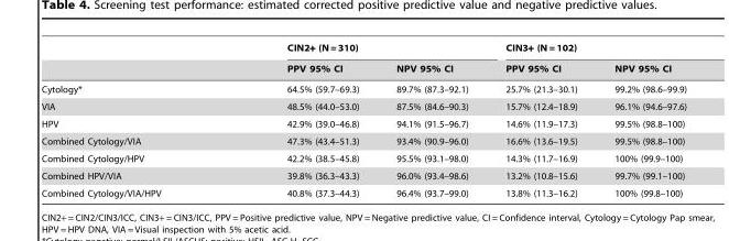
<table><thead><tr><td rowspan="2"></td><td colspan="2">CIN2+ (N = 310)</td><td colspan="2">CIN3+ (N = 102)</td></tr><tr><td>PPV 95% CI</td><td>NPV 95% CI</td><td>PPV 95% CI</td><td>NPV 95% CI</td></tr></thead><tbody><tr><td>Cytology*</td><td>64.5% (59.7–69.3)</td><td>89.7% (87.3–92.1)</td><td>25.7% (21.3–30.1)</td><td>99.2% (98.6–99.9)</td></tr><tr><td>VIA</td><td>48.5% (44.0–53.0)</td><td>87.5% (84.6–90.3)</td><td>15.7% (12.4–18.9)</td><td>96.1% (94.6–97.6)</td></tr><tr><td>HPV</td><td>42.9% (39.0–46.8)</td><td>94.1% (91.5–96.7)</td><td>14.6% (11.9–17.3)</td><td>99.5% (98.8–100)</td></tr><tr><td>Combined Cytology/VIA</td><td>47.3% (43.4–51.3)</td><td>93.4% (90.9–96.0)</td><td>16.6% (13.6–19.5)</td><td>99.5% (98.8–100)</td></tr><tr><td>Combined Cytology/HPV</td><td>42.2% (38.5–45.8)</td><td>95.5% (93.1–98.0)</td><td>14.3% (11.7–16.9)</td><td>100% (99.9–100)</td></tr><tr><td>Combined HPV/VIA</td><td>39.8% (36.3–43.3)</td><td>96.0% (93.4–98.6)</td><td>13.2% (10.8–15.6)</td><td>99.7% (99.1–100)</td></tr><tr><td>Combined Cytology/VIA/HPV</td><td>40.8% (37.3–44.3)</td><td>96.4% (93.7–99.0)</td><td>13.8% (11.3–16.2)</td><td>100% (99.8–100)</td></tr></tbody></table>